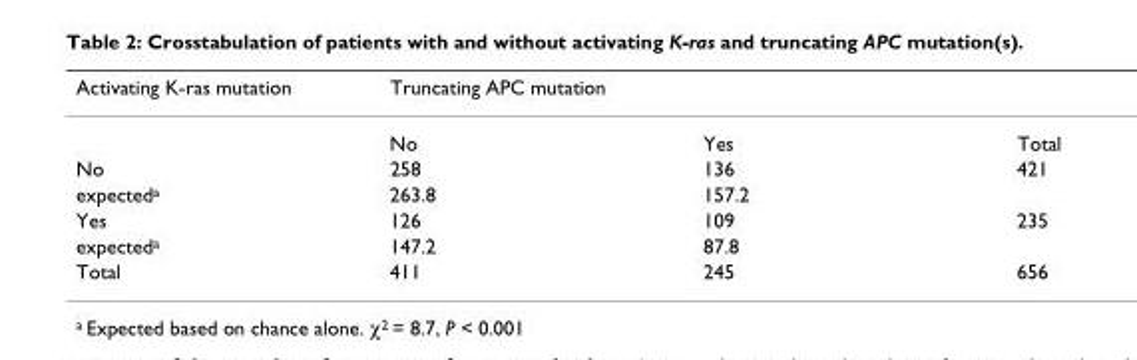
<table><thead><tr><td rowspan="2">Activating K-ras mutation</td><td colspan="2">Truncating APC mutation</td><td rowspan="2">Total</td></tr><tr><td>No</td><td>Yes</td></tr></thead><tbody><tr><td>No</td><td>258</td><td>136</td><td>421</td></tr><tr><td>expecteda</td><td>263.8</td><td>157.2</td><td></td></tr><tr><td>Yes</td><td>126</td><td>109</td><td>235</td></tr><tr><td>expecteda</td><td>147.2</td><td>87.8</td><td></td></tr><tr><td>Total</td><td>411</td><td>245</td><td>656</td></tr></tbody></table>